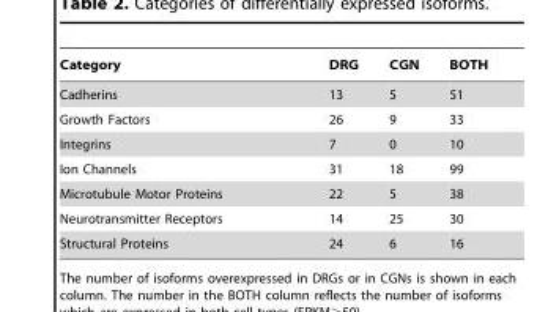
<table><thead><tr><td>Category</td><td>DRG</td><td>CGN</td><td>BOTH</td></tr></thead><tbody><tr><td>Cadherins</td><td>13</td><td>5</td><td>51</td></tr><tr><td>Growth Factors</td><td>26</td><td>9</td><td>33</td></tr><tr><td>Integrins</td><td>7</td><td>0</td><td>10</td></tr><tr><td>Ion Channels</td><td>31</td><td>18</td><td>99</td></tr><tr><td>Microtubule Motor Proteins</td><td>22</td><td>5</td><td>38</td></tr><tr><td>Neurotransmitter Receptors</td><td>14</td><td>25</td><td>30</td></tr><tr><td>Structural Proteins</td><td>24</td><td>6</td><td>16</td></tr></tbody></table>